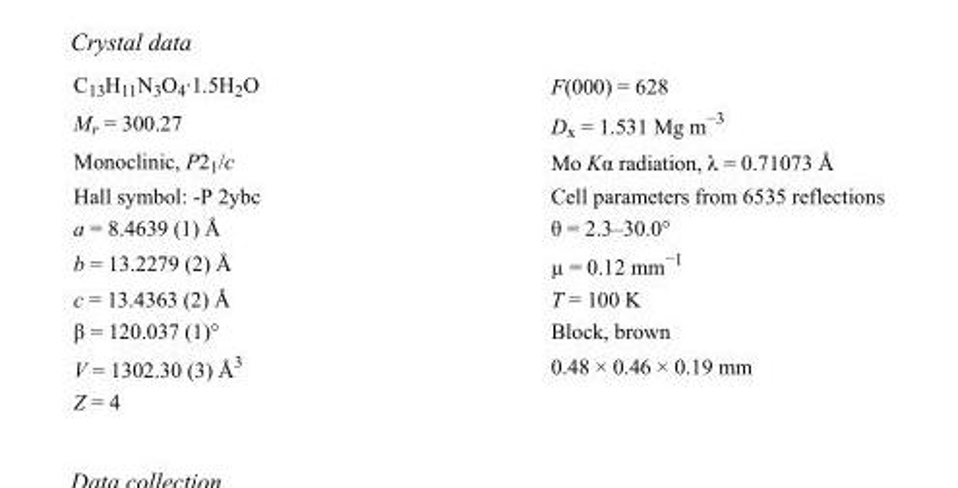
<table><tbody><tr><td>C<sub>13</sub>H<sub>11</sub>N<sub>3</sub>O<sub>4</sub>·1.5H<sub>2</sub>O</td><td>F(000) = 628</td></tr><tr><td>M<sub>r</sub> = 300.27</td><td>D<sub>x</sub> = 1.531 Mg m<sup>−3</sup></td></tr><tr><td>Monoclinic, P2<sub>1</sub>/c</td><td>Mo Kα radiation, λ = 0.71073 Å</td></tr><tr><td>Hall symbol: -P 2ybc</td><td>Cell parameters from 6535 reflections</td></tr><tr><td>a = 8.4639 (1) Å</td><td>θ = 2.3–30.0°</td></tr><tr><td>b = 13.2279 (2) Å</td><td>µ = 0.12 mm<sup>−1</sup></td></tr><tr><td>c = 13.4363 (2) Å</td><td>T = 100 K</td></tr><tr><td>β = 120.037 (1)°</td><td>Block, brown</td></tr><tr><td>V = 1302.30 (3) Å<sup>3</sup></td><td>0.48 × 0.46 × 0.19 mm</td></tr><tr><td>Z = 4</td><td></td></tr></tbody></table>